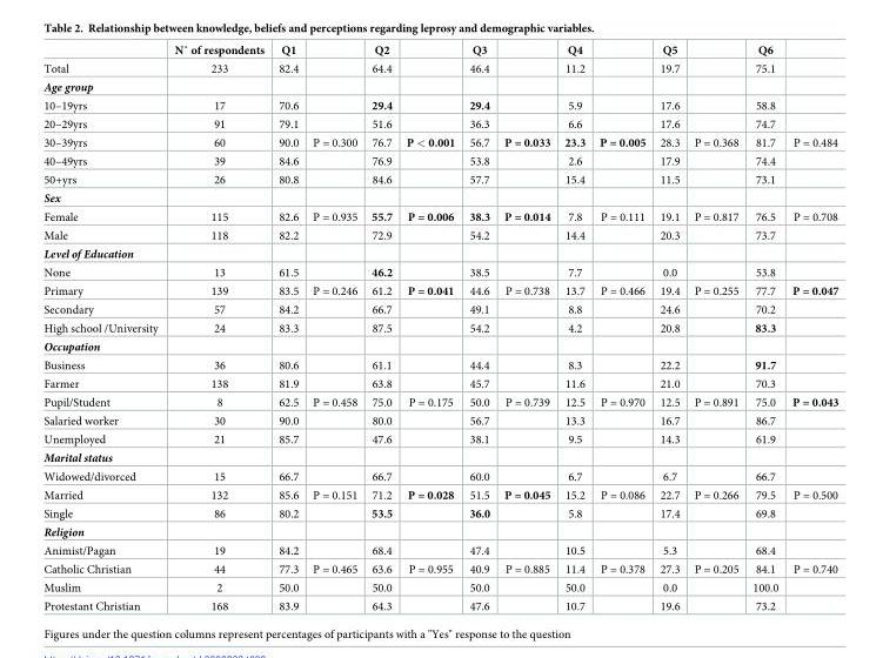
<table><thead><tr><td></td><td>N˚ of respondents</td><td>Q1</td><td></td><td>Q2</td><td></td><td>Q3</td><td></td><td>Q4</td><td></td><td>Q5</td><td></td><td>Q6</td><td></td></tr></thead><tbody><tr><td>Total</td><td>233</td><td>82.4</td><td></td><td>64.4</td><td></td><td>46.4</td><td></td><td>11.2</td><td></td><td>19.7</td><td></td><td>75.1</td><td></td></tr><tr><td colspan="14">Age group</td></tr><tr><td>10–19yrs</td><td>17</td><td>70.6</td><td></td><td>29.4</td><td></td><td>29.4</td><td></td><td>5.9</td><td></td><td>17.6</td><td></td><td>58.8</td><td></td></tr><tr><td>20–29yrs</td><td>91</td><td>79.1</td><td></td><td>51.6</td><td></td><td>36.3</td><td></td><td>6.6</td><td></td><td>17.6</td><td></td><td>74.7</td><td></td></tr><tr><td>30–39yrs</td><td>60</td><td>90.0</td><td>P = 0.300</td><td>76.7</td><td>P &lt; 0.001</td><td>56.7</td><td>P = 0.033</td><td>23.3</td><td>P = 0.005</td><td>28.3</td><td>P = 0.368</td><td>81.7</td><td>P = 0.484</td></tr><tr><td>40–49yrs</td><td>39</td><td>84.6</td><td></td><td>76.9</td><td></td><td>53.8</td><td></td><td>2.6</td><td></td><td>17.9</td><td></td><td>74.4</td><td></td></tr><tr><td>50+yrs</td><td>26</td><td>80.8</td><td></td><td>84.6</td><td></td><td>57.7</td><td></td><td>15.4</td><td></td><td>11.5</td><td></td><td>73.1</td><td></td></tr><tr><td colspan="14">Sex</td></tr><tr><td>Female</td><td>115</td><td>82.6</td><td>P = 0.935</td><td>55.7</td><td>P = 0.006</td><td>38.3</td><td>P = 0.014</td><td>7.8</td><td>P = 0.111</td><td>19.1</td><td>P = 0.817</td><td>76.5</td><td>P = 0.708</td></tr><tr><td>Male</td><td>118</td><td>82.2</td><td></td><td>72.9</td><td></td><td>54.2</td><td></td><td>14.4</td><td></td><td>20.3</td><td></td><td>73.7</td><td></td></tr><tr><td colspan="14">Level of Education</td></tr><tr><td>None</td><td>13</td><td>61.5</td><td></td><td>46.2</td><td></td><td>38.5</td><td></td><td>7.7</td><td></td><td>0.0</td><td></td><td>53.8</td><td></td></tr><tr><td>Primary</td><td>139</td><td>83.5</td><td>P = 0.246</td><td>61.2</td><td>P = 0.041</td><td>44.6</td><td>P = 0.738</td><td>13.7</td><td>P = 0.466</td><td>19.4</td><td>P = 0.255</td><td>77.7</td><td>P = 0.047</td></tr><tr><td>Secondary</td><td>57</td><td>84.2</td><td></td><td>66.7</td><td></td><td>49.1</td><td></td><td>8.8</td><td></td><td>24.6</td><td></td><td>70.2</td><td></td></tr><tr><td>High school /University</td><td>24</td><td>83.3</td><td></td><td>87.5</td><td></td><td>54.2</td><td></td><td>4.2</td><td></td><td>20.8</td><td></td><td>83.3</td><td></td></tr><tr><td colspan="14">Occupation</td></tr><tr><td>Business</td><td>36</td><td>80.6</td><td></td><td>61.1</td><td></td><td>44.4</td><td></td><td>8.3</td><td></td><td>22.2</td><td></td><td>91.7</td><td></td></tr><tr><td>Farmer</td><td>138</td><td>81.9</td><td></td><td>63.8</td><td></td><td>45.7</td><td></td><td>11.6</td><td></td><td>21.0</td><td></td><td>70.3</td><td></td></tr><tr><td>Pupil/Student</td><td>8</td><td>62.5</td><td>P = 0.458</td><td>75.0</td><td>P = 0.175</td><td>50.0</td><td>P = 0.739</td><td>12.5</td><td>P = 0.970</td><td>12.5</td><td>P = 0.891</td><td>75.0</td><td>P = 0.043</td></tr><tr><td>Salaried worker</td><td>30</td><td>90.0</td><td></td><td>80.0</td><td></td><td>56.7</td><td></td><td>13.3</td><td></td><td>16.7</td><td></td><td>86.7</td><td></td></tr><tr><td>Unemployed</td><td>21</td><td>85.7</td><td></td><td>47.6</td><td></td><td>38.1</td><td></td><td>9.5</td><td></td><td>14.3</td><td></td><td>61.9</td><td></td></tr><tr><td colspan="14">Marital status</td></tr><tr><td>Widowed/divorced</td><td>15</td><td>66.7</td><td></td><td>66.7</td><td></td><td>60.0</td><td></td><td>6.7</td><td></td><td>6.7</td><td></td><td>66.7</td><td></td></tr><tr><td>Married</td><td>132</td><td>85.6</td><td>P = 0.151</td><td>71.2</td><td>P = 0.028</td><td>51.5</td><td>P = 0.045</td><td>15.2</td><td>P = 0.086</td><td>22.7</td><td>P = 0.266</td><td>79.5</td><td>P = 0.500</td></tr><tr><td>Single</td><td>86</td><td>80.2</td><td></td><td>53.5</td><td></td><td>36.0</td><td></td><td>5.8</td><td></td><td>17.4</td><td></td><td>69.8</td><td></td></tr><tr><td colspan="14">Religion</td></tr><tr><td>Animist/Pagan</td><td>19</td><td>84.2</td><td></td><td>68.4</td><td></td><td>47.4</td><td></td><td>10.5</td><td></td><td>5.3</td><td></td><td>68.4</td><td></td></tr><tr><td>Catholic Christian</td><td>44</td><td>77.3</td><td>P = 0.465</td><td>63.6</td><td>P = 0.955</td><td>40.9</td><td>P = 0.885</td><td>11.4</td><td>P = 0.378</td><td>27.3</td><td>P = 0.205</td><td>84.1</td><td>P = 0.740</td></tr><tr><td>Muslim</td><td>2</td><td>50.0</td><td></td><td>50.0</td><td></td><td>50.0</td><td></td><td>50.0</td><td></td><td>0.0</td><td></td><td>100.0</td><td></td></tr><tr><td>Protestant Christian</td><td>168</td><td>83.9</td><td></td><td>64.3</td><td></td><td>47.6</td><td></td><td>10.7</td><td></td><td>19.6</td><td></td><td>73.2</td><td></td></tr></tbody></table>